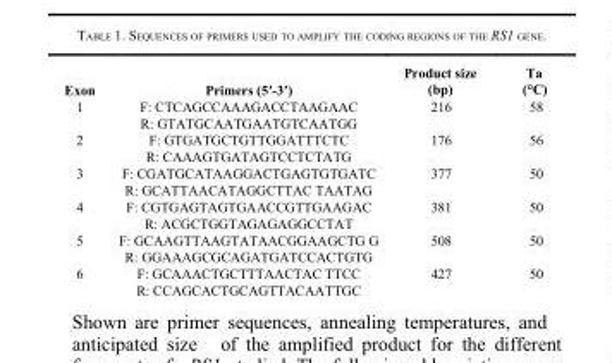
<table><thead><tr><td>Exon</td><td>Primers (5′-3′)</td><td>Product size (bp)</td><td>Ta (°C)</td></tr></thead><tbody><tr><td rowspan="2">1</td><td>F: CTCAGCCAAAGACCTAAGAAC</td><td>216</td><td>58</td></tr><tr><td>R: GTATGCAATGAATGTCAATGG</td><td></td><td></td></tr><tr><td rowspan="2">2</td><td>F: GTGATGCTGTTGGATTTCTC</td><td>176</td><td>56</td></tr><tr><td>R: CAAAGTGATAGTCCTCTATG</td><td></td><td></td></tr><tr><td rowspan="2">3</td><td>F: CGATGCATAAGGACTGAGTGTGATC</td><td>377</td><td>50</td></tr><tr><td>R: GCATTAACATAGGCTTAC TAATAG</td><td></td><td></td></tr><tr><td rowspan="2">4</td><td>F: CGTGAGTAGTGAACCGTTGAAGAC</td><td>381</td><td>50</td></tr><tr><td>R: ACGCTGGTAGAGAGGCCTAT</td><td></td><td></td></tr><tr><td rowspan="2">5</td><td>F: GCAAGTTAAGTATAACGGAAGCTG G</td><td>508</td><td>50</td></tr><tr><td>R: GGAAAGCGCAGATGATCCACTGTG</td><td></td><td></td></tr><tr><td rowspan="2">6</td><td>F: GCAAACTGCTTTAACTAC TTCC</td><td>427</td><td>50</td></tr><tr><td>R: CCAGCACTGCAGTTACAATTGC</td><td></td><td></td></tr></tbody></table>